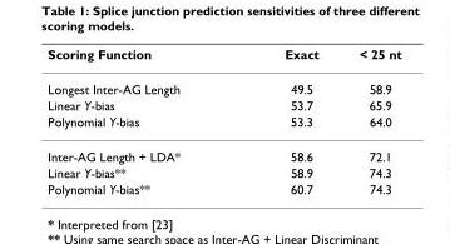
<table><thead><tr><td>Scoring Function</td><td>Exact</td><td>&lt; 25 nt</td></tr></thead><tbody><tr><td>Longest Inter-AG Length</td><td>49.5</td><td>58.9</td></tr><tr><td>Linear Y-bias</td><td>53.7</td><td>65.9</td></tr><tr><td>Polynomial Y-bias</td><td>53.3</td><td>64.0</td></tr><tr><td>Inter-AG Length + LDA*</td><td>58.6</td><td>72.1</td></tr><tr><td>Linear Y-bias**</td><td>58.9</td><td>74.3</td></tr><tr><td>Polynomial Y-bias**</td><td>60.7</td><td>74.3</td></tr></tbody></table>